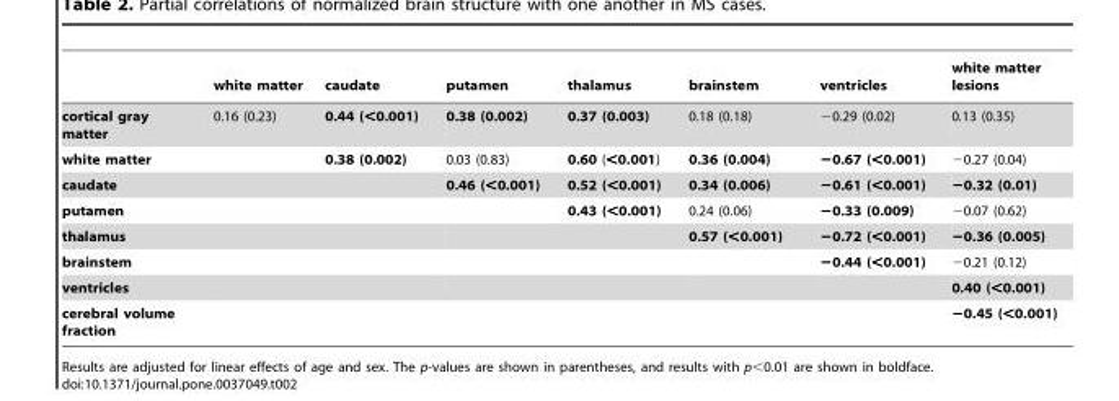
<table><thead><tr><td></td><td>white matter</td><td>caudate</td><td>putamen</td><td>thalamus</td><td>brainstem</td><td>ventricles</td><td>white matter lesions</td></tr></thead><tbody><tr><td>cortical gray matter</td><td>0.16 (0.23)</td><td>0.44 (&lt;0.001)</td><td>0.38 (0.002)</td><td>0.37 (0.003)</td><td>0.18 (0.18)</td><td>−0.29 (0.02)</td><td>0.13 (0.35)</td></tr><tr><td>white matter</td><td></td><td>0.38 (0.002)</td><td>0.03 (0.83)</td><td>0.60 (&lt;0.001)</td><td>0.36 (0.004)</td><td>−0.67 (&lt;0.001)</td><td>−0.27 (0.04)</td></tr><tr><td>caudate</td><td></td><td></td><td>0.46 (&lt;0.001)</td><td>0.52 (&lt;0.001)</td><td>0.34 (0.006)</td><td>−0.61 (&lt;0.001)</td><td>−0.32 (0.01)</td></tr><tr><td>putamen</td><td></td><td></td><td></td><td>0.43 (&lt;0.001)</td><td>0.24 (0.06)</td><td>−0.33 (0.009)</td><td>−0.07 (0.62)</td></tr><tr><td>thalamus</td><td></td><td></td><td></td><td></td><td>0.57 (&lt;0.001)</td><td>−0.72 (&lt;0.001)</td><td>−0.36 (0.005)</td></tr><tr><td>brainstem</td><td></td><td></td><td></td><td></td><td></td><td>−0.44 (&lt;0.001)</td><td>−0.21 (0.12)</td></tr><tr><td>ventricles</td><td></td><td></td><td></td><td></td><td></td><td></td><td>0.40 (&lt;0.001)</td></tr><tr><td>cerebral volume fraction</td><td></td><td></td><td></td><td></td><td></td><td></td><td>−0.45 (&lt;0.001)</td></tr></tbody></table>